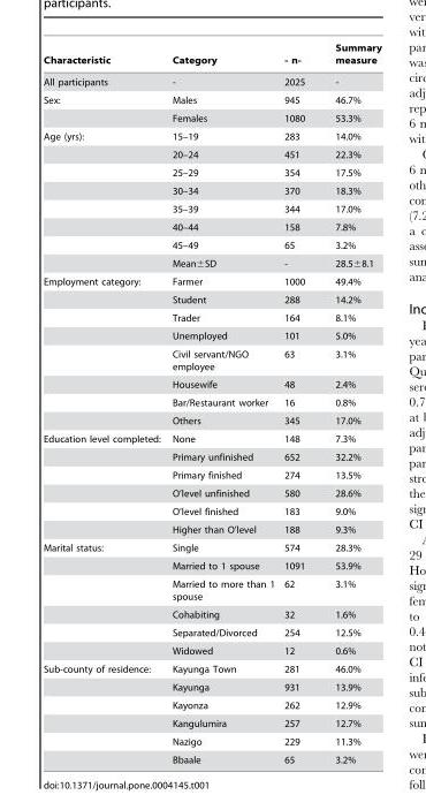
<table><thead><tr><td>Characteristic</td><td>Category</td><td>- n-</td><td>Summary measure</td></tr></thead><tbody><tr><td>All participants</td><td>-</td><td>2025</td><td>-</td></tr><tr><td rowspan="2">Sex:</td><td>Males</td><td>945</td><td>46.7%</td></tr><tr><td>Females</td><td>1080</td><td>53.3%</td></tr><tr><td rowspan="8">Age (yrs):</td><td>15–19</td><td>283</td><td>14.0%</td></tr><tr><td>20–24</td><td>451</td><td>22.3%</td></tr><tr><td>25–29</td><td>354</td><td>17.5%</td></tr><tr><td>30–34</td><td>370</td><td>18.3%</td></tr><tr><td>35–39</td><td>344</td><td>17.0%</td></tr><tr><td>40–44</td><td>158</td><td>7.8%</td></tr><tr><td>45–49</td><td>65</td><td>3.2%</td></tr><tr><td>Mean±SD</td><td>-</td><td>28.5±8.1</td></tr><tr><td rowspan="8">Employment category:</td><td>Farmer</td><td>1000</td><td>49.4%</td></tr><tr><td>Student</td><td>288</td><td>14.2%</td></tr><tr><td>Trader</td><td>164</td><td>8.1%</td></tr><tr><td>Unemployed</td><td>101</td><td>5.0%</td></tr><tr><td>Civil servant/NGO employee</td><td>63</td><td>3.1%</td></tr><tr><td>Housewife</td><td>48</td><td>2.4%</td></tr><tr><td>Bar/Restaurant worker</td><td>16</td><td>0.8%</td></tr><tr><td>Others</td><td>345</td><td>17.0%</td></tr><tr><td rowspan="6">Education level completed:</td><td>None</td><td>148</td><td>7.3%</td></tr><tr><td>Primary unfinished</td><td>652</td><td>32.2%</td></tr><tr><td>Primary finished</td><td>274</td><td>13.5%</td></tr><tr><td>O’level unfinished</td><td>580</td><td>28.6%</td></tr><tr><td>O’level finished</td><td>183</td><td>9.0%</td></tr><tr><td>Higher than O’level</td><td>188</td><td>9.3%</td></tr><tr><td rowspan="6">Marital status:</td><td>Single</td><td>574</td><td>28.3%</td></tr><tr><td>Married to 1 spouse</td><td>1091</td><td>53.9%</td></tr><tr><td>Married to more than 1 spouse</td><td>62</td><td>3.1%</td></tr><tr><td>Cohabiting</td><td>32</td><td>1.6%</td></tr><tr><td>Separated/Divorced</td><td>254</td><td>12.5%</td></tr><tr><td>Widowed</td><td>12</td><td>0.6%</td></tr><tr><td rowspan="6">Sub-county of residence:</td><td>Kayunga Town</td><td>281</td><td>46.0%</td></tr><tr><td>Kayunga</td><td>931</td><td>13.9%</td></tr><tr><td>Kayonza</td><td>262</td><td>12.9%</td></tr><tr><td>Kangulumira</td><td>257</td><td>12.7%</td></tr><tr><td>Nazigo</td><td>229</td><td>11.3%</td></tr><tr><td>Bbaale</td><td>65</td><td>3.2%</td></tr></tbody></table>